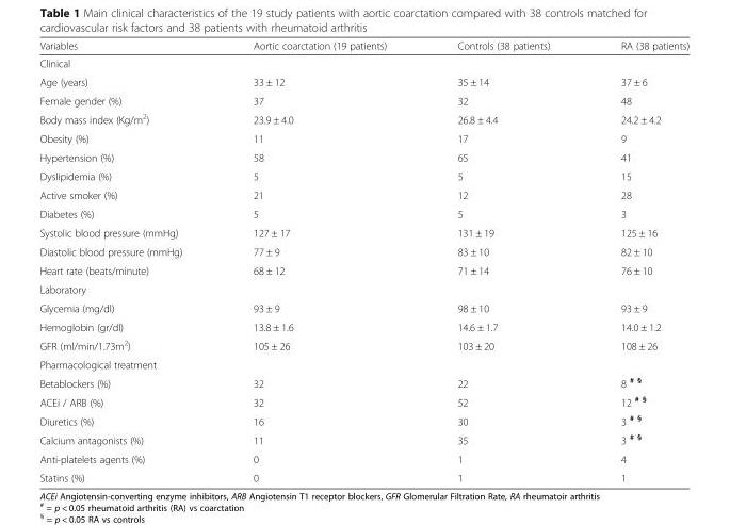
<table><thead><tr><td>Variables</td><td>Aortic coarctation (19 patients)</td><td>Controls (38 patients)</td><td>RA (38 patients)</td></tr></thead><tbody><tr><td colspan="4">Clinical</td></tr><tr><td>Age (years)</td><td>33 ± 12</td><td>35 ± 14</td><td>37 ± 6</td></tr><tr><td>Female gender (%)</td><td>37</td><td>32</td><td>48</td></tr><tr><td>Body mass index (Kg/m<sup>2</sup>)</td><td>23.9 ± 4.0</td><td>26.8 ± 4.4</td><td>24.2 ± 4.2</td></tr><tr><td>Obesity (%)</td><td>11</td><td>17</td><td>9</td></tr><tr><td>Hypertension (%)</td><td>58</td><td>65</td><td>41</td></tr><tr><td>Dyslipidemia (%)</td><td>5</td><td>5</td><td>15</td></tr><tr><td>Active smoker (%)</td><td>21</td><td>12</td><td>28</td></tr><tr><td>Diabetes (%)</td><td>5</td><td>5</td><td>3</td></tr><tr><td>Systolic blood pressure (mmHg)</td><td>127 ± 17</td><td>131 ± 19</td><td>125 ± 16</td></tr><tr><td>Diastolic blood pressure (mmHg)</td><td>77 ± 9</td><td>83 ± 10</td><td>82 ± 10</td></tr><tr><td>Heart rate (beats/minute)</td><td>68 ± 12</td><td>71 ± 14</td><td>76 ± 10</td></tr><tr><td colspan="4">Laboratory</td></tr><tr><td>Glycemia (mg/dl)</td><td>93 ± 9</td><td>98 ± 10</td><td>93 ± 9</td></tr><tr><td>Hemoglobin (gr/dl)</td><td>13.8 ± 1.6</td><td>14.6 ± 1.7</td><td>14.0 ± 1.2</td></tr><tr><td>GFR (ml/min/1.73m<sup>2</sup>)</td><td>105 ± 26</td><td>103 ± 20</td><td>108 ± 26</td></tr><tr><td colspan="4">Pharmacological treatment</td></tr><tr><td>Betablockers (%)</td><td>32</td><td>22</td><td>8 <sup># §</sup></td></tr><tr><td>ACEi / ARB (%)</td><td>32</td><td>52</td><td>12 <sup># §</sup></td></tr><tr><td>Diuretics (%)</td><td>16</td><td>30</td><td>3 <sup># §</sup></td></tr><tr><td>Calcium antagonists (%)</td><td>11</td><td>35</td><td>3 <sup># §</sup></td></tr><tr><td>Anti-platelets agents (%)</td><td>0</td><td>1</td><td>4</td></tr><tr><td>Statins (%)</td><td>0</td><td>1</td><td>1</td></tr></tbody></table>